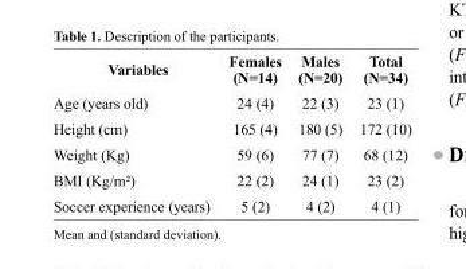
<table><thead><tr><td>Variables</td><td>Females (N=14)</td><td>Males (N=20)</td><td>Total (N=34)</td></tr></thead><tbody><tr><td>Age (years old)</td><td>24 (4)</td><td>22 (3)</td><td>23 (1)</td></tr><tr><td>Height (cm)</td><td>165 (4)</td><td>180 (5)</td><td>172 (10)</td></tr><tr><td>Weight (Kg)</td><td>59 (6)</td><td>77 (7)</td><td>68 (12)</td></tr><tr><td>BMI (Kg/m²)</td><td>22 (2)</td><td>24 (1)</td><td>23 (2)</td></tr><tr><td>Soccer experience (years)</td><td>5 (2)</td><td>4 (2)</td><td>4 (1)</td></tr></tbody></table>